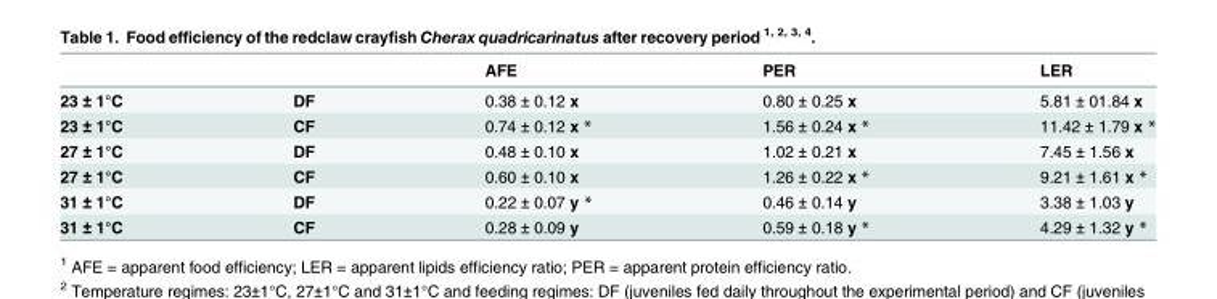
<table><thead><tr><td></td><td></td><td>AFE</td><td>PER</td><td>LER</td></tr></thead><tbody><tr><td>23 ± 1°C</td><td>DF</td><td>0.38 ± 0.12 x</td><td>0.80 ± 0.25 x</td><td>5.81 ± 01.84 x</td></tr><tr><td>23 ± 1°C</td><td>CF</td><td>0.74 ± 0.12 x *</td><td>1.56 ± 0.24 x *</td><td>11.42 ± 1.79 x *</td></tr><tr><td>27 ± 1°C</td><td>DF</td><td>0.48 ± 0.10 x</td><td>1.02 ± 0.21 x</td><td>7.45 ± 1.56 x</td></tr><tr><td>27 ± 1°C</td><td>CF</td><td>0.60 ± 0.10 x</td><td>1.26 ± 0.22 x *</td><td>9.21 ± 1.61 x *</td></tr><tr><td>31 ± 1°C</td><td>DF</td><td>0.22 ± 0.07 y *</td><td>0.46 ± 0.14 y</td><td>3.38 ± 1.03 y</td></tr><tr><td>31 ± 1°C</td><td>CF</td><td>0.28 ± 0.09 y</td><td>0.59 ± 0.18 y *</td><td>4.29 ± 1.32 y *</td></tr></tbody></table>